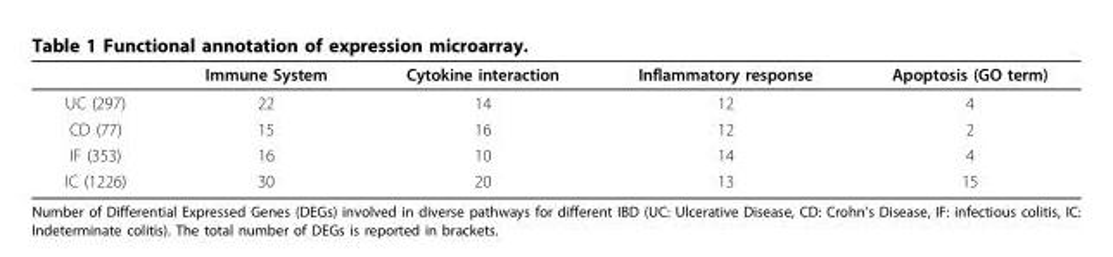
<table><thead><tr><td></td><td>Immune System</td><td>Cytokine interaction</td><td>Inflammatory response</td><td>Apoptosis (GO term)</td></tr></thead><tbody><tr><td>UC (297)</td><td>22</td><td>14</td><td>12</td><td>4</td></tr><tr><td>CD (77)</td><td>15</td><td>16</td><td>12</td><td>2</td></tr><tr><td>IF (353)</td><td>16</td><td>10</td><td>14</td><td>4</td></tr><tr><td>IC (1226)</td><td>30</td><td>20</td><td>13</td><td>15</td></tr></tbody></table>